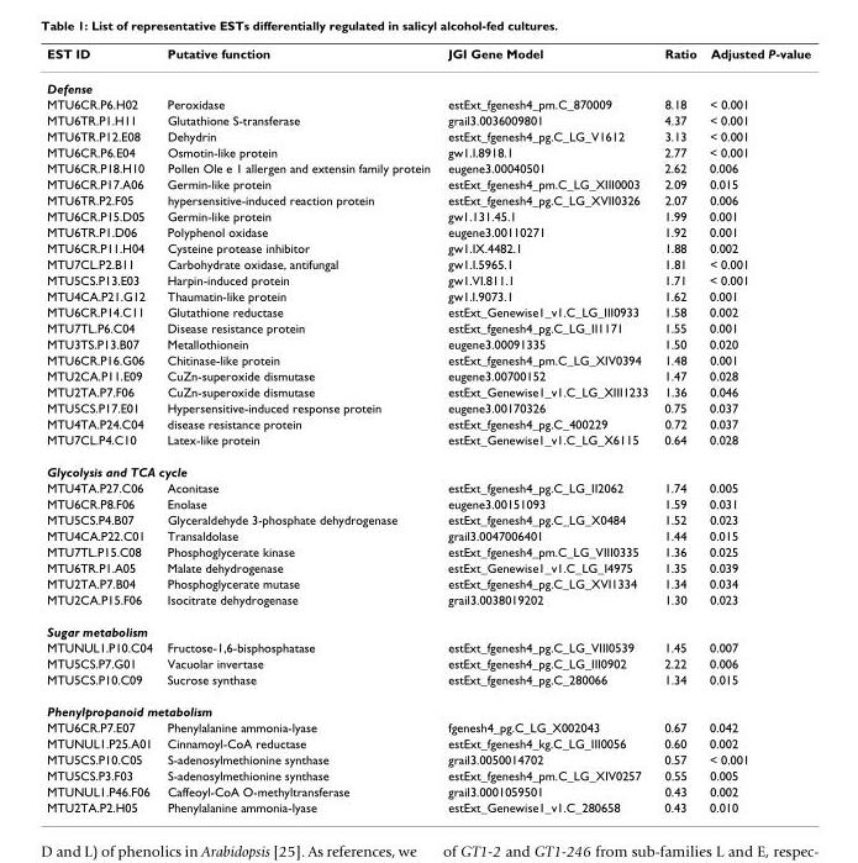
<table><thead><tr><td>EST ID</td><td>Putative function</td><td>JGI Gene Model</td><td>Ratio</td><td>Adjusted P-value</td></tr></thead><tbody><tr><td colspan="5">Defense</td></tr><tr><td>MTU6CR.P6.H02</td><td>Peroxidase</td><td>estExt_fgenesh4_pm.C_870009</td><td>8.18</td><td>&lt; 0.001</td></tr><tr><td>MTU6TR.P1.H11</td><td>Glutathione S-transferase</td><td>grail3.0036009801</td><td>4.37</td><td>&lt; 0.001</td></tr><tr><td>MTU6TR.P12.E08</td><td>Dehydrin</td><td>estExt_fgenesh4_pg.C_LG_V1612</td><td>3.13</td><td>&lt; 0.001</td></tr><tr><td>MTU6CR.P6.E04</td><td>Osmotin-like protein</td><td>gw1.I.8918.1</td><td>2.77</td><td>&lt; 0.001</td></tr><tr><td>MTU6CR.P18.H10</td><td>Pollen Ole e 1 allergen and extensin family protein</td><td>eugene3.00040501</td><td>2.62</td><td>0.006</td></tr><tr><td>MTU6CR.P17.A06</td><td>Germin-like protein</td><td>estExt_fgenesh4_pm.C_LG_XIII0003</td><td>2.09</td><td>0.015</td></tr><tr><td>MTU6TR.P2.F05</td><td>hypersensitive-induced reaction protein</td><td>estExt_fgenesh4_pg.C_LG_XVII0326</td><td>2.07</td><td>0.006</td></tr><tr><td>MTU6CR.P15.D05</td><td>Germin-like protein</td><td>gw1.131.45.1</td><td>1.99</td><td>0.001</td></tr><tr><td>MTU6TR.P1.D06</td><td>Polyphenol oxidase</td><td>eugene3.00110271</td><td>1.92</td><td>0.001</td></tr><tr><td>MTU6CR.P11.H04</td><td>Cysteine protease inhibitor</td><td>gw1.IX.4482.1</td><td>1.88</td><td>0.002</td></tr><tr><td>MTU7CL.P2.B11</td><td>Carbohydrate oxidase, antifungal</td><td>gw1.I.5965.1</td><td>1.81</td><td>&lt; 0.001</td></tr><tr><td>MTU5CS.P13.E03</td><td>Harpin-induced protein</td><td>gw1.VI.811.1</td><td>1.71</td><td>&lt; 0.001</td></tr><tr><td>MTU4CA.P21.G12</td><td>Thaumatin-like protein</td><td>gw1.I.9073.1</td><td>1.62</td><td>0.001</td></tr><tr><td>MTU6CR.P14.C11</td><td>Glutathione reductase</td><td>estExt_Genewise1_v1.C_LG_III0933</td><td>1.58</td><td>0.002</td></tr><tr><td>MTU7TL.P6.C04</td><td>Disease resistance protein</td><td>estExt_fgenesh4_pg.C_LG_II1171</td><td>1.55</td><td>0.001</td></tr><tr><td>MTU3TS.P13.B07</td><td>Metallothionein</td><td>eugene3.00091335</td><td>1.50</td><td>0.020</td></tr><tr><td>MTU6CR.P16.G06</td><td>Chitinase-like protein</td><td>estExt_fgenesh4_pm.C_LG_XIV0394</td><td>1.48</td><td>0.001</td></tr><tr><td>MTU2CA.P11.E09</td><td>CuZn-superoxide dismutase</td><td>eugene3.00700152</td><td>1.47</td><td>0.028</td></tr><tr><td>MTU2TA.P7.F06</td><td>CuZn-superoxide dismutase</td><td>estExt_Genewise1_v1.C_LG_XIII1233</td><td>1.36</td><td>0.046</td></tr><tr><td>MTU5CS.P17.E01</td><td>Hypersensitive-induced response protein</td><td>eugene3.00170326</td><td>0.75</td><td>0.037</td></tr><tr><td>MTU4TA.P24.C04</td><td>disease resistance protein</td><td>estExt_fgenesh4_pg.C_400229</td><td>0.72</td><td>0.037</td></tr><tr><td>MTU7CL.P4.C10</td><td>Latex-like protein</td><td>estExt_Genewise1_v1.C_LG_X6115</td><td>0.64</td><td>0.028</td></tr><tr><td colspan="5">Glycolysis and TCA cycle</td></tr><tr><td>MTU4TA.P27.C06</td><td>Aconitase</td><td>estExt_fgenesh4_pg.C_LG_II2062</td><td>1.74</td><td>0.005</td></tr><tr><td>MTU6CR.P8.F06</td><td>Enolase</td><td>eugene3.00151093</td><td>1.59</td><td>0.031</td></tr><tr><td>MTU5CS.P4.B07</td><td>Glyceraldehyde 3-phosphate dehydrogenase</td><td>estExt_fgenesh4_pg.C_LG_X0484</td><td>1.52</td><td>0.023</td></tr><tr><td>MTU4CA.P22.C01</td><td>Transaldolase</td><td>grail3.0047006401</td><td>1.44</td><td>0.015</td></tr><tr><td>MTU7TL.P15.C08</td><td>Phosphoglycerate kinase</td><td>estExt_fgenesh4_pm.C_LG_VIII0335</td><td>1.36</td><td>0.025</td></tr><tr><td>MTU6TR.P1.A05</td><td>Malate dehydrogenase</td><td>estExt_Genewise1_v1.C_LG_I4975</td><td>1.35</td><td>0.039</td></tr><tr><td>MTU2TA.P7.B04</td><td>Phosphoglycerate mutase</td><td>estExt_fgenesh4_pg.C_LG_XVI1334</td><td>1.34</td><td>0.034</td></tr><tr><td>MTU2CA.P15.F06</td><td>Isocitrate dehydrogenase</td><td>grail3.0038019202</td><td>1.30</td><td>0.023</td></tr><tr><td colspan="5">Sugar metabolism</td></tr><tr><td>MTUNUL1.P10.C04</td><td>Fructose-1,6-bisphosphatase</td><td>estExt_fgenesh4_pg.C_LG_VIII0539</td><td>1.45</td><td>0.007</td></tr><tr><td>MTU5CS.P7.G01</td><td>Vacuolar invertase</td><td>estExt_fgenesh4_pg.C_LG_III0902</td><td>2.22</td><td>0.006</td></tr><tr><td>MTU5CS.P10.C09</td><td>Sucrose synthase</td><td>estExt_fgenesh4_pg.C_280066</td><td>1.34</td><td>0.015</td></tr><tr><td colspan="5">Phenylpropanoid metabolism</td></tr><tr><td>MTU6CR.P7.E07</td><td>Phenylalanine ammonia-lyase</td><td>fgenesh4_pg.C_LG_X002043</td><td>0.67</td><td>0.042</td></tr><tr><td>MTUNUL1.P25.A01</td><td>Cinnamoyl-CoA reductase</td><td>estExt_fgenesh4_kg.C_LG_III0056</td><td>0.60</td><td>0.002</td></tr><tr><td>MTU5CS.P10.C05</td><td>S-adenosylmethionine synthase</td><td>grail3.0050014702</td><td>0.57</td><td>&lt; 0.001</td></tr><tr><td>MTU5CS.P3.F03</td><td>S-adenosylmethionine synthase</td><td>estExt_fgenesh4_pm.C_LG_XIV0257</td><td>0.55</td><td>0.005</td></tr><tr><td>MTUNUL1.P46.F06</td><td>Caffeoyl-CoA O-methyltransferase</td><td>grail3.0001059501</td><td>0.43</td><td>0.002</td></tr><tr><td>MTU2TA.P2.H05</td><td>Phenylalanine ammonia-lyase</td><td>estExt_Genewise1_v1.C_280658</td><td>0.43</td><td>0.010</td></tr></tbody></table>